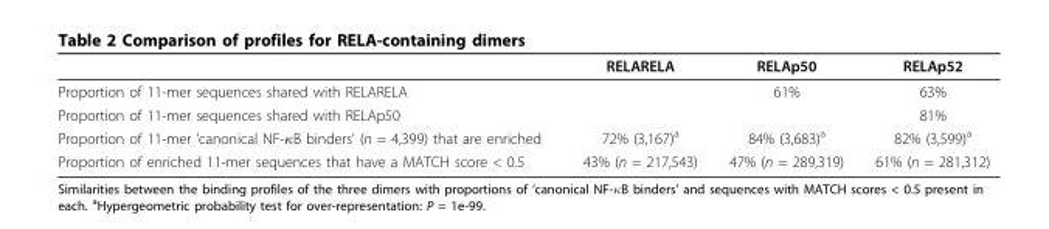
<table><thead><tr><td></td><td>RELARELA</td><td>RELAp50</td><td>RELAp52</td></tr></thead><tbody><tr><td>Proportion of 11-mer sequences shared with RELARELA</td><td></td><td>61%</td><td>63%</td></tr><tr><td>Proportion of 11-mer sequences shared with RELAp50</td><td></td><td></td><td>81%</td></tr><tr><td>Proportion of 11-mer ‘canonical NF-κB binders’ (n = 4,399) that are enriched</td><td>72% (3,167)<sup>a</sup></td><td>84% (3,683)<sup>a</sup></td><td>82% (3,599)<sup>a</sup></td></tr><tr><td>Proportion of enriched 11-mer sequences that have a MATCH score &lt; 0.5</td><td>43% (n = 217,543)</td><td>47% (n = 289,319)</td><td>61% (n = 281,312)</td></tr></tbody></table>